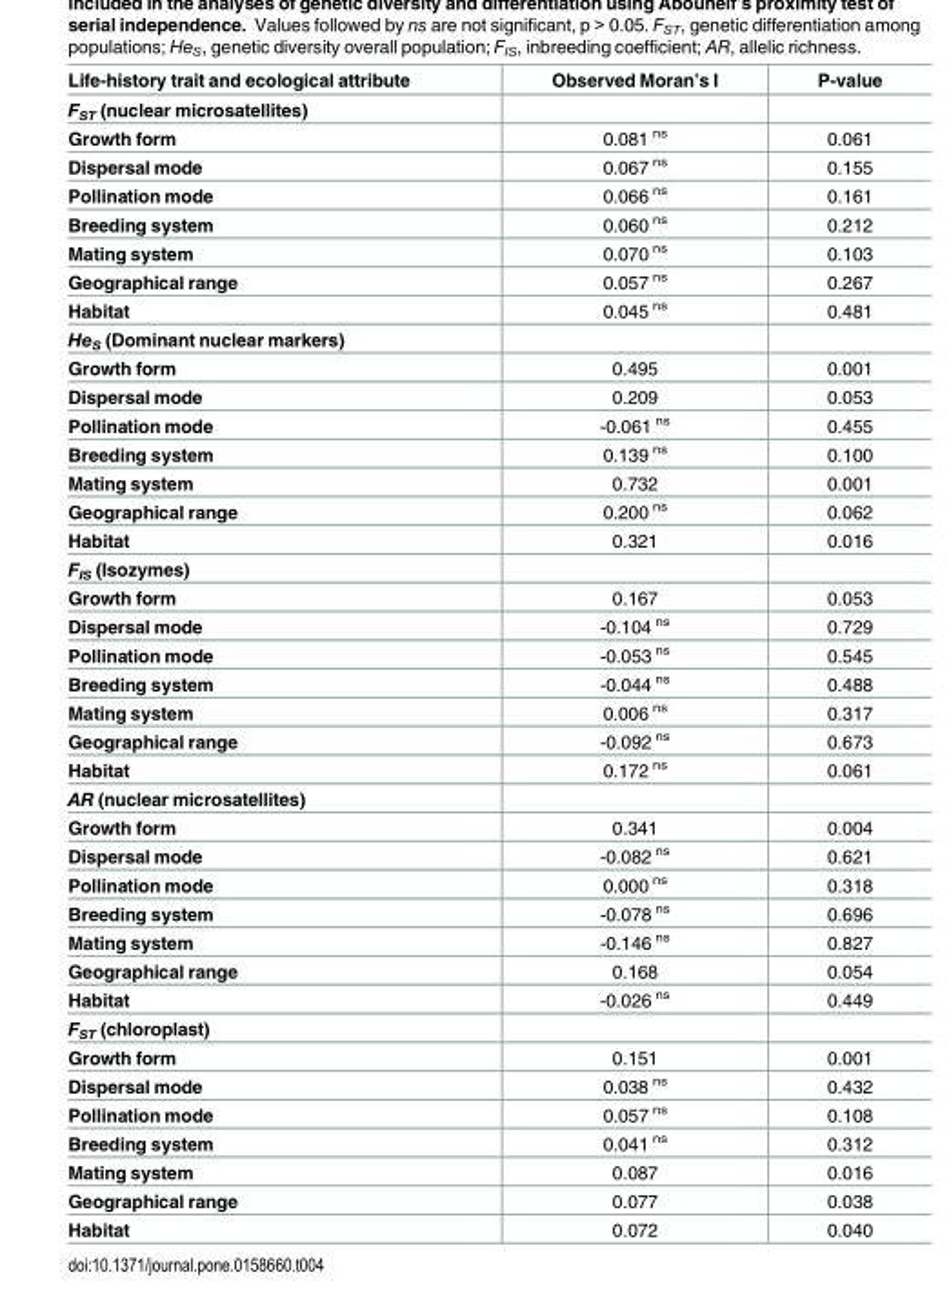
<table><thead><tr><td>Life-history trait and ecological attribute</td><td>Observed Moran’s I</td><td>P-value</td></tr></thead><tbody><tr><td colspan="3">F<sub>ST</sub> (nuclear microsatellites)</td></tr><tr><td>Growth form</td><td>0.081 <sup>ns</sup></td><td>0.061</td></tr><tr><td>Dispersal mode</td><td>0.067 <sup>ns</sup></td><td>0.155</td></tr><tr><td>Pollination mode</td><td>0.066 <sup>ns</sup></td><td>0.161</td></tr><tr><td>Breeding system</td><td>0.060 <sup>ns</sup></td><td>0.212</td></tr><tr><td>Mating system</td><td>0.070 <sup>ns</sup></td><td>0.103</td></tr><tr><td>Geographical range</td><td>0.057 <sup>ns</sup></td><td>0.267</td></tr><tr><td>Habitat</td><td>0.045 <sup>ns</sup></td><td>0.481</td></tr><tr><td colspan="3">He<sub>S</sub> (Dominant nuclear markers)</td></tr><tr><td>Growth form</td><td>0.495</td><td>0.001</td></tr><tr><td>Dispersal mode</td><td>0.209</td><td>0.053</td></tr><tr><td>Pollination mode</td><td>-0.061 <sup>ns</sup></td><td>0.455</td></tr><tr><td>Breeding system</td><td>0.139 <sup>ns</sup></td><td>0.100</td></tr><tr><td>Mating system</td><td>0.732</td><td>0.001</td></tr><tr><td>Geographical range</td><td>0.200 <sup>ns</sup></td><td>0.062</td></tr><tr><td>Habitat</td><td>0.321</td><td>0.016</td></tr><tr><td colspan="3">F<sub>IS</sub> (Isozymes)</td></tr><tr><td>Growth form</td><td>0.167</td><td>0.053</td></tr><tr><td>Dispersal mode</td><td>-0.104 <sup>ns</sup></td><td>0.729</td></tr><tr><td>Pollination mode</td><td>-0.053 <sup>ns</sup></td><td>0.545</td></tr><tr><td>Breeding system</td><td>-0.044 <sup>ns</sup></td><td>0.488</td></tr><tr><td>Mating system</td><td>0.006 <sup>ns</sup></td><td>0.317</td></tr><tr><td>Geographical range</td><td>-0.092 <sup>ns</sup></td><td>0.673</td></tr><tr><td>Habitat</td><td>0.172 <sup>ns</sup></td><td>0.061</td></tr><tr><td colspan="3">AR (nuclear microsatellites)</td></tr><tr><td>Growth form</td><td>0.341</td><td>0.004</td></tr><tr><td>Dispersal mode</td><td>-0.082 <sup>ns</sup></td><td>0.621</td></tr><tr><td>Pollination mode</td><td>0.000 <sup>ns</sup></td><td>0.318</td></tr><tr><td>Breeding system</td><td>-0.078 <sup>ns</sup></td><td>0.696</td></tr><tr><td>Mating system</td><td>-0.146 <sup>ns</sup></td><td>0.827</td></tr><tr><td>Geographical range</td><td>0.168</td><td>0.054</td></tr><tr><td>Habitat</td><td>-0.026 <sup>ns</sup></td><td>0.449</td></tr><tr><td colspan="3">F<sub>ST</sub> (chloroplast)</td></tr><tr><td>Growth form</td><td>0.151</td><td>0.001</td></tr><tr><td>Dispersal mode</td><td>0.038 <sup>ns</sup></td><td>0.432</td></tr><tr><td>Pollination mode</td><td>0.057 <sup>ns</sup></td><td>0.108</td></tr><tr><td>Breeding system</td><td>0.041 <sup>ns</sup></td><td>0.312</td></tr><tr><td>Mating system</td><td>0.087</td><td>0.016</td></tr><tr><td>Geographical range</td><td>0.077</td><td>0.038</td></tr><tr><td>Habitat</td><td>0.072</td><td>0.040</td></tr></tbody></table>